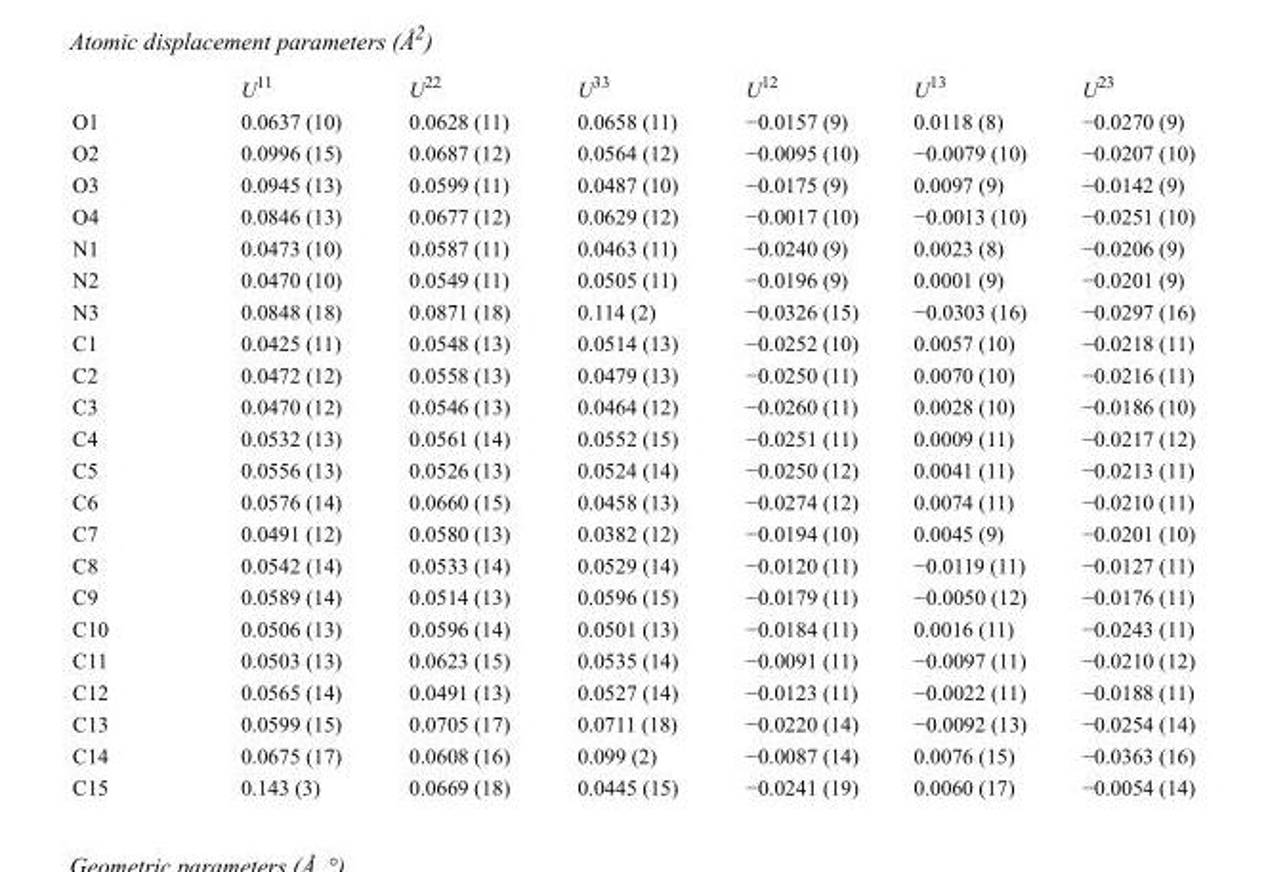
<table><thead><tr><td></td><td>U<sup>11</sup></td><td>U<sup>22</sup></td><td>U<sup>33</sup></td><td>U<sup>12</sup></td><td>U<sup>13</sup></td><td>U<sup>23</sup></td></tr></thead><tbody><tr><td>O1</td><td>0.0637 (10)</td><td>0.0628 (11)</td><td>0.0658 (11)</td><td>−0.0157 (9)</td><td>0.0118 (8)</td><td>−0.0270 (9)</td></tr><tr><td>O2</td><td>0.0996 (15)</td><td>0.0687 (12)</td><td>0.0564 (12)</td><td>−0.0095 (10)</td><td>−0.0079 (10)</td><td>−0.0207 (10)</td></tr><tr><td>O3</td><td>0.0945 (13)</td><td>0.0599 (11)</td><td>0.0487 (10)</td><td>−0.0175 (9)</td><td>0.0097 (9)</td><td>−0.0142 (9)</td></tr><tr><td>O4</td><td>0.0846 (13)</td><td>0.0677 (12)</td><td>0.0629 (12)</td><td>−0.0017 (10)</td><td>−0.0013 (10)</td><td>−0.0251 (10)</td></tr><tr><td>N1</td><td>0.0473 (10)</td><td>0.0587 (11)</td><td>0.0463 (11)</td><td>−0.0240 (9)</td><td>0.0023 (8)</td><td>−0.0206 (9)</td></tr><tr><td>N2</td><td>0.0470 (10)</td><td>0.0549 (11)</td><td>0.0505 (11)</td><td>−0.0196 (9)</td><td>0.0001 (9)</td><td>−0.0201 (9)</td></tr><tr><td>N3</td><td>0.0848 (18)</td><td>0.0871 (18)</td><td>0.114 (2)</td><td>−0.0326 (15)</td><td>−0.0303 (16)</td><td>−0.0297 (16)</td></tr><tr><td>C1</td><td>0.0425 (11)</td><td>0.0548 (13)</td><td>0.0514 (13)</td><td>−0.0252 (10)</td><td>0.0057 (10)</td><td>−0.0218 (11)</td></tr><tr><td>C2</td><td>0.0472 (12)</td><td>0.0558 (13)</td><td>0.0479 (13)</td><td>−0.0250 (11)</td><td>0.0070 (10)</td><td>−0.0216 (11)</td></tr><tr><td>C3</td><td>0.0470 (12)</td><td>0.0546 (13)</td><td>0.0464 (12)</td><td>−0.0260 (11)</td><td>0.0028 (10)</td><td>−0.0186 (10)</td></tr><tr><td>C4</td><td>0.0532 (13)</td><td>0.0561 (14)</td><td>0.0552 (15)</td><td>−0.0251 (11)</td><td>0.0009 (11)</td><td>−0.0217 (12)</td></tr><tr><td>C5</td><td>0.0556 (13)</td><td>0.0526 (13)</td><td>0.0524 (14)</td><td>−0.0250 (12)</td><td>0.0041 (11)</td><td>−0.0213 (11)</td></tr><tr><td>C6</td><td>0.0576 (14)</td><td>0.0660 (15)</td><td>0.0458 (13)</td><td>−0.0274 (12)</td><td>0.0074 (11)</td><td>−0.0210 (11)</td></tr><tr><td>C7</td><td>0.0491 (12)</td><td>0.0580 (13)</td><td>0.0382 (12)</td><td>−0.0194 (10)</td><td>0.0045 (9)</td><td>−0.0201 (10)</td></tr><tr><td>C8</td><td>0.0542 (14)</td><td>0.0533 (14)</td><td>0.0529 (14)</td><td>−0.0120 (11)</td><td>−0.0119 (11)</td><td>−0.0127 (11)</td></tr><tr><td>C9</td><td>0.0589 (14)</td><td>0.0514 (13)</td><td>0.0596 (15)</td><td>−0.0179 (11)</td><td>−0.0050 (12)</td><td>−0.0176 (11)</td></tr><tr><td>C10</td><td>0.0506 (13)</td><td>0.0596 (14)</td><td>0.0501 (13)</td><td>−0.0184 (11)</td><td>0.0016 (11)</td><td>−0.0243 (11)</td></tr><tr><td>C11</td><td>0.0503 (13)</td><td>0.0623 (15)</td><td>0.0535 (14)</td><td>−0.0091 (11)</td><td>−0.0097 (11)</td><td>−0.0210 (12)</td></tr><tr><td>C12</td><td>0.0565 (14)</td><td>0.0491 (13)</td><td>0.0527 (14)</td><td>−0.0123 (11)</td><td>−0.0022 (11)</td><td>−0.0188 (11)</td></tr><tr><td>C13</td><td>0.0599 (15)</td><td>0.0705 (17)</td><td>0.0711 (18)</td><td>−0.0220 (14)</td><td>−0.0092 (13)</td><td>−0.0254 (14)</td></tr><tr><td>C14</td><td>0.0675 (17)</td><td>0.0608 (16)</td><td>0.099 (2)</td><td>−0.0087 (14)</td><td>0.0076 (15)</td><td>−0.0363 (16)</td></tr><tr><td>C15</td><td>0.143 (3)</td><td>0.0669 (18)</td><td>0.0445 (15)</td><td>−0.0241 (19)</td><td>0.0060 (17)</td><td>−0.0054 (14)</td></tr></tbody></table>